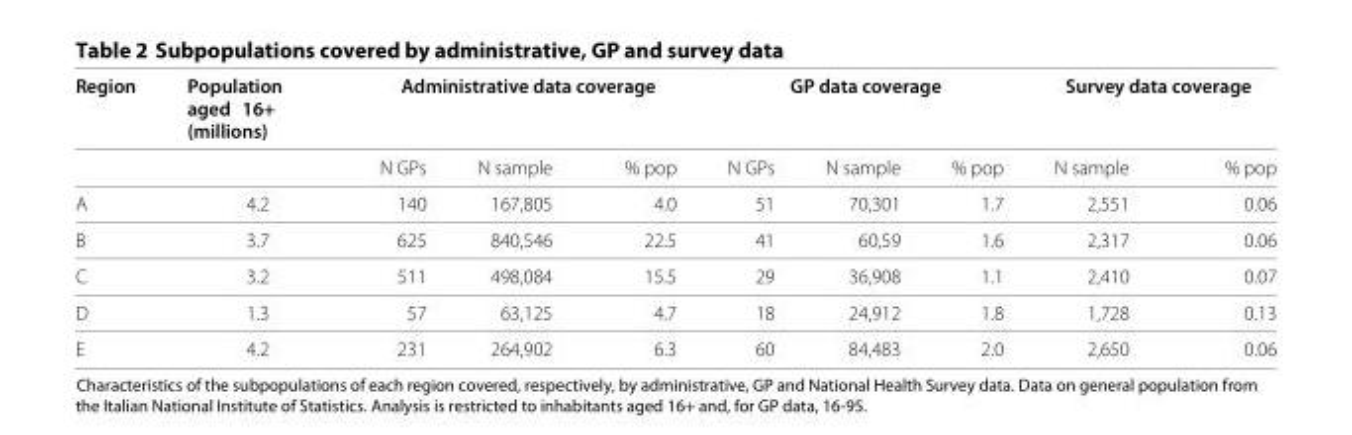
<table><thead><tr><td rowspan="2">Region</td><td rowspan="2">Population aged 16+ (millions)</td><td colspan="3">Administrative data coverage</td><td colspan="3">GP data coverage</td><td colspan="2">Survey data coverage</td></tr><tr><td>N GPs</td><td>N sample</td><td>% pop</td><td>N GPs</td><td>N sample</td><td>% pop</td><td>N sample</td><td>% pop</td></tr></thead><tbody><tr><td>A</td><td>4.2</td><td>140</td><td>167,805</td><td>4.0</td><td>51</td><td>70,301</td><td>1.7</td><td>2,551</td><td>0.06</td></tr><tr><td>B</td><td>3.7</td><td>625</td><td>840,546</td><td>22.5</td><td>41</td><td>60,59</td><td>1.6</td><td>2,317</td><td>0.06</td></tr><tr><td>C</td><td>3.2</td><td>511</td><td>498,084</td><td>15.5</td><td>29</td><td>36,908</td><td>1.1</td><td>2,410</td><td>0.07</td></tr><tr><td>D</td><td>1.3</td><td>57</td><td>63,125</td><td>4.7</td><td>18</td><td>24,912</td><td>1.8</td><td>1,728</td><td>0.13</td></tr><tr><td>E</td><td>4.2</td><td>231</td><td>264,902</td><td>6.3</td><td>60</td><td>84,483</td><td>2.0</td><td>2,650</td><td>0.06</td></tr></tbody></table>